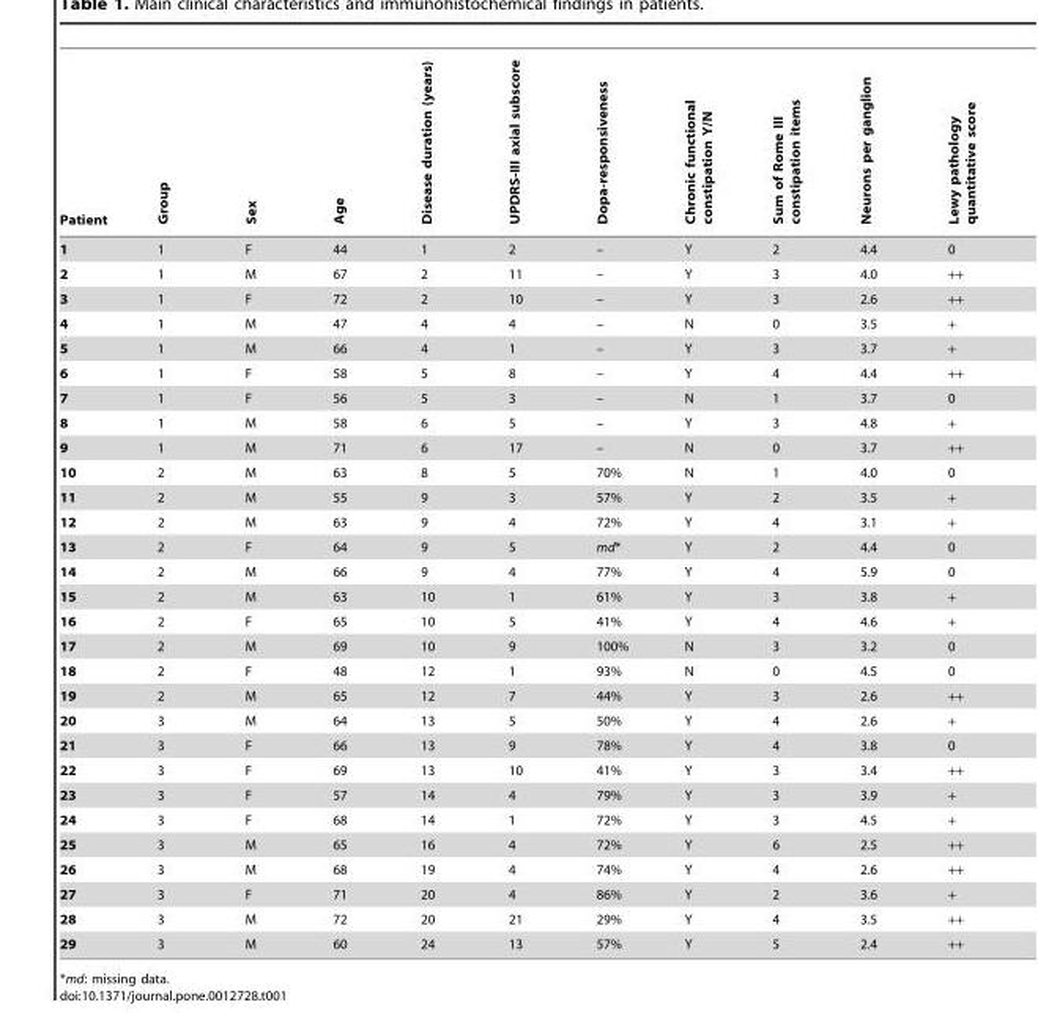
<table><thead><tr><td>Patient</td><td>Group</td><td>Sex</td><td>Age</td><td>Disease duration (years)</td><td>UPDRS-III axial subscore</td><td>Dopa-responsiveness</td><td>Chronic functional constipation Y/N</td><td>Sum of Rome III constipation items</td><td>Neurons per ganglion</td><td>Lewy pathology quantitative score</td></tr></thead><tbody><tr><td>1</td><td>1</td><td>F</td><td>44</td><td>1</td><td>2</td><td>–</td><td>Y</td><td>2</td><td>4.4</td><td>0</td></tr><tr><td>2</td><td>1</td><td>M</td><td>67</td><td>2</td><td>11</td><td>–</td><td>Y</td><td>3</td><td>4.0</td><td>++</td></tr><tr><td>3</td><td>1</td><td>F</td><td>72</td><td>2</td><td>10</td><td>–</td><td>Y</td><td>3</td><td>2.6</td><td>++</td></tr><tr><td>4</td><td>1</td><td>M</td><td>47</td><td>4</td><td>4</td><td>–</td><td>N</td><td>0</td><td>3.5</td><td>+</td></tr><tr><td>5</td><td>1</td><td>M</td><td>66</td><td>4</td><td>1</td><td>–</td><td>Y</td><td>3</td><td>3.7</td><td>+</td></tr><tr><td>6</td><td>1</td><td>F</td><td>58</td><td>5</td><td>8</td><td>–</td><td>Y</td><td>4</td><td>4.4</td><td>++</td></tr><tr><td>7</td><td>1</td><td>F</td><td>56</td><td>5</td><td>3</td><td>–</td><td>N</td><td>1</td><td>3.7</td><td>0</td></tr><tr><td>8</td><td>1</td><td>M</td><td>58</td><td>6</td><td>5</td><td>–</td><td>Y</td><td>3</td><td>4.8</td><td>+</td></tr><tr><td>9</td><td>1</td><td>M</td><td>71</td><td>6</td><td>17</td><td>–</td><td>N</td><td>0</td><td>3.7</td><td>++</td></tr><tr><td>10</td><td>2</td><td>M</td><td>63</td><td>8</td><td>5</td><td>70%</td><td>N</td><td>1</td><td>4.0</td><td>0</td></tr><tr><td>11</td><td>2</td><td>M</td><td>55</td><td>9</td><td>3</td><td>57%</td><td>Y</td><td>2</td><td>3.5</td><td>+</td></tr><tr><td>12</td><td>2</td><td>M</td><td>63</td><td>9</td><td>4</td><td>72%</td><td>Y</td><td>4</td><td>3.1</td><td>+</td></tr><tr><td>13</td><td>2</td><td>F</td><td>64</td><td>9</td><td>5</td><td>md*</td><td>Y</td><td>2</td><td>4.4</td><td>0</td></tr><tr><td>14</td><td>2</td><td>M</td><td>66</td><td>9</td><td>4</td><td>77%</td><td>Y</td><td>4</td><td>5.9</td><td>0</td></tr><tr><td>15</td><td>2</td><td>M</td><td>63</td><td>10</td><td>1</td><td>61%</td><td>Y</td><td>3</td><td>3.8</td><td>+</td></tr><tr><td>16</td><td>2</td><td>F</td><td>65</td><td>10</td><td>5</td><td>41%</td><td>Y</td><td>4</td><td>4.6</td><td>+</td></tr><tr><td>17</td><td>2</td><td>M</td><td>69</td><td>10</td><td>9</td><td>100%</td><td>N</td><td>3</td><td>3.2</td><td>0</td></tr><tr><td>18</td><td>2</td><td>F</td><td>48</td><td>12</td><td>1</td><td>93%</td><td>N</td><td>0</td><td>4.5</td><td>0</td></tr><tr><td>19</td><td>2</td><td>M</td><td>65</td><td>12</td><td>7</td><td>44%</td><td>Y</td><td>3</td><td>2.6</td><td>++</td></tr><tr><td>20</td><td>3</td><td>M</td><td>64</td><td>13</td><td>5</td><td>50%</td><td>Y</td><td>4</td><td>2.6</td><td>+</td></tr><tr><td>21</td><td>3</td><td>F</td><td>66</td><td>13</td><td>9</td><td>78%</td><td>Y</td><td>4</td><td>3.8</td><td>0</td></tr><tr><td>22</td><td>3</td><td>F</td><td>69</td><td>13</td><td>10</td><td>41%</td><td>Y</td><td>3</td><td>3.4</td><td>++</td></tr><tr><td>23</td><td>3</td><td>F</td><td>57</td><td>14</td><td>4</td><td>79%</td><td>Y</td><td>3</td><td>3.9</td><td>+</td></tr><tr><td>24</td><td>3</td><td>F</td><td>68</td><td>14</td><td>1</td><td>72%</td><td>Y</td><td>3</td><td>4.5</td><td>+</td></tr><tr><td>25</td><td>3</td><td>M</td><td>65</td><td>16</td><td>4</td><td>72%</td><td>Y</td><td>6</td><td>2.5</td><td>++</td></tr><tr><td>26</td><td>3</td><td>M</td><td>68</td><td>19</td><td>4</td><td>74%</td><td>Y</td><td>4</td><td>2.6</td><td>++</td></tr><tr><td>27</td><td>3</td><td>F</td><td>71</td><td>20</td><td>4</td><td>86%</td><td>Y</td><td>2</td><td>3.6</td><td>+</td></tr><tr><td>28</td><td>3</td><td>M</td><td>72</td><td>20</td><td>21</td><td>29%</td><td>Y</td><td>4</td><td>3.5</td><td>++</td></tr><tr><td>29</td><td>3</td><td>M</td><td>60</td><td>24</td><td>13</td><td>57%</td><td>Y</td><td>5</td><td>2.4</td><td>++</td></tr></tbody></table>